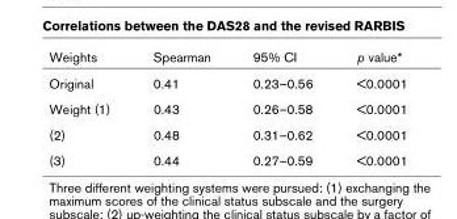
<table><thead><tr><td>Weights</td><td>Spearman</td><td>95% CI</td><td>p value*</td></tr></thead><tbody><tr><td>Original</td><td>0.41</td><td>0.23–0.56</td><td>&lt;0.0001</td></tr><tr><td>Weight (1)</td><td>0.43</td><td>0.26–0.58</td><td>&lt;0.0001</td></tr><tr><td>(2)</td><td>0.48</td><td>0.31–0.62</td><td>&lt;0.0001</td></tr><tr><td>(3)</td><td>0.44</td><td>0.27–0.59</td><td>&lt;0.0001</td></tr></tbody></table>